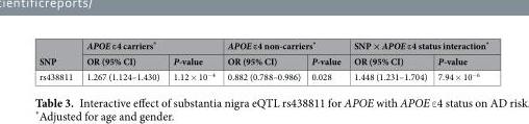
<table><thead><tr><td rowspan="2">SNP</td><td colspan="2">APOE ε4 carriers*</td><td colspan="2">APOE ε4 non-carriers*</td><td colspan="2">SNP × APOE ε4 status interaction*</td></tr><tr><td>OR (95% CI)</td><td>P-value</td><td>OR (95% CI)</td><td>P-value</td><td>OR (95% CI)</td><td>P-value</td></tr></thead><tbody><tr><td>rs438811</td><td>1.267 (1.124–1.430)</td><td>1.12 × 10<sup>−4</sup></td><td>0.882 (0.788–0.986)</td><td>0.028</td><td>1.448 (1.231–1.704)</td><td>7.94 × 10<sup>−6</sup></td></tr></tbody></table>